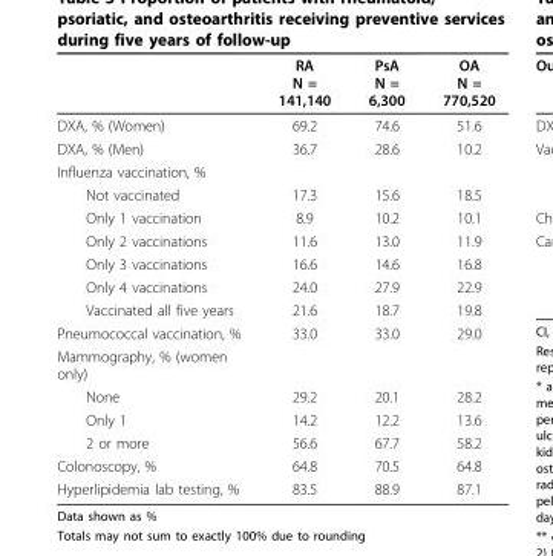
<table><thead><tr><td></td><td>RA N = 141,140</td><td>PsA N = 6,300</td><td>OA N = 770,520</td></tr></thead><tbody><tr><td>DXA, % (Women)</td><td>69.2</td><td>74.6</td><td>51.6</td></tr><tr><td>DXA, % (Men)</td><td>36.7</td><td>28.6</td><td>10.2</td></tr><tr><td colspan="4">Influenza vaccination, %</td></tr><tr><td>Not vaccinated</td><td>17.3</td><td>15.6</td><td>18.5</td></tr><tr><td>Only 1 vaccination</td><td>8.9</td><td>10.2</td><td>10.1</td></tr><tr><td>Only 2 vaccinations</td><td>11.6</td><td>13.0</td><td>11.9</td></tr><tr><td>Only 3 vaccinations</td><td>16.6</td><td>14.6</td><td>16.8</td></tr><tr><td>Only 4 vaccinations</td><td>24.0</td><td>27.9</td><td>22.9</td></tr><tr><td>Vaccinated all five years</td><td>21.6</td><td>18.7</td><td>19.8</td></tr><tr><td>Pneumococcal vaccination, %</td><td>33.0</td><td>33.0</td><td>29.0</td></tr><tr><td colspan="4">Mammography, % (women only)</td></tr><tr><td>None</td><td>29.2</td><td>20.1</td><td>28.2</td></tr><tr><td>Only 1</td><td>14.2</td><td>12.2</td><td>13.6</td></tr><tr><td>2 or more</td><td>56.6</td><td>67.7</td><td>58.2</td></tr><tr><td>Colonoscopy, %</td><td>64.8</td><td>70.5</td><td>64.8</td></tr><tr><td>Hyperlipidemia lab testing, %</td><td>83.5</td><td>88.9</td><td>87.1</td></tr></tbody></table>